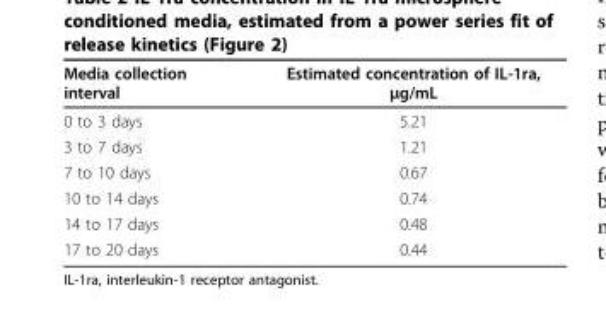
<table><thead><tr><td>Media collection interval</td><td>Estimated concentration of IL-1ra, μg/mL</td></tr></thead><tbody><tr><td>0 to 3 days</td><td>5.21</td></tr><tr><td>3 to 7 days</td><td>1.21</td></tr><tr><td>7 to 10 days</td><td>0.67</td></tr><tr><td>10 to 14 days</td><td>0.74</td></tr><tr><td>14 to 17 days</td><td>0.48</td></tr><tr><td>17 to 20 days</td><td>0.44</td></tr></tbody></table>